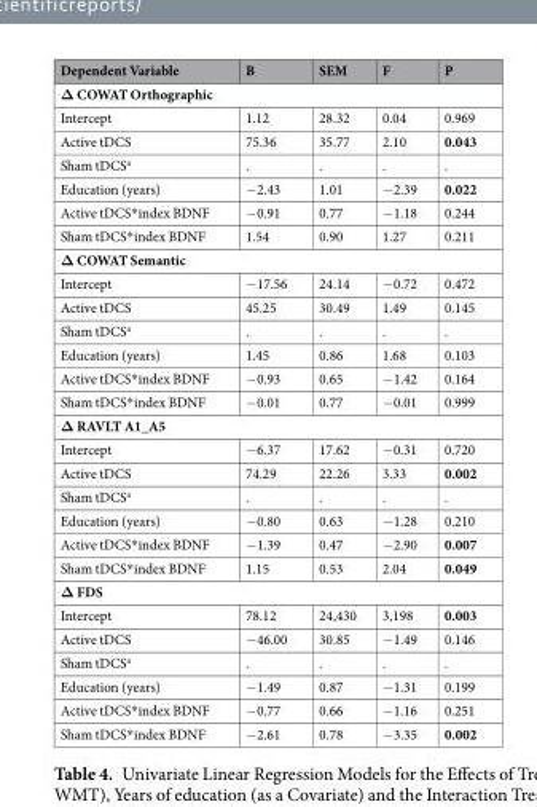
<table><thead><tr><td>Dependent Variable</td><td>B</td><td>SEM</td><td>F</td><td>P</td></tr></thead><tbody><tr><td colspan="5">Δ COWAT Orthographic</td></tr><tr><td>Intercept</td><td>1.12</td><td>28.32</td><td>0.04</td><td>0.969</td></tr><tr><td>Active tDCS</td><td>75.36</td><td>35.77</td><td>2.10</td><td>0.043</td></tr><tr><td>Sham tDCS<sup>a</sup></td><td>.</td><td>.</td><td>.</td><td>.</td></tr><tr><td>Education (years)</td><td>−2.43</td><td>1.01</td><td>−2.39</td><td>0.022</td></tr><tr><td>Active tDCS*index BDNF</td><td>−0.91</td><td>0.77</td><td>−1.18</td><td>0.244</td></tr><tr><td>Sham tDCS*index BDNF</td><td>1.54</td><td>0.90</td><td>1.27</td><td>0.211</td></tr><tr><td colspan="5">Δ COWAT Semantic</td></tr><tr><td>Intercept</td><td>−17.56</td><td>24.14</td><td>−0.72</td><td>0.472</td></tr><tr><td>Active tDCS</td><td>45.25</td><td>30.49</td><td>1.49</td><td>0.145</td></tr><tr><td>Sham tDCS<sup>a</sup></td><td>.</td><td>.</td><td>.</td><td>.</td></tr><tr><td>Education (years)</td><td>1.45</td><td>0.86</td><td>1.68</td><td>0.103</td></tr><tr><td>Active tDCS*index BDNF</td><td>−0.93</td><td>0.65</td><td>−1.42</td><td>0.164</td></tr><tr><td>Sham tDCS*index BDNF</td><td>−0.01</td><td>0.77</td><td>−0.01</td><td>0.999</td></tr><tr><td colspan="5">Δ RAVLT A1_A5</td></tr><tr><td>Intercept</td><td>−6.37</td><td>17.62</td><td>−0.31</td><td>0.720</td></tr><tr><td>Active tDCS</td><td>74.29</td><td>22.26</td><td>3.33</td><td>0.002</td></tr><tr><td>Sham tDCS<sup>a</sup></td><td>.</td><td>.</td><td>.</td><td>.</td></tr><tr><td>Education (years)</td><td>−0.80</td><td>0.63</td><td>−1.28</td><td>0.210</td></tr><tr><td>Active tDCS*index BDNF</td><td>−1.39</td><td>0.47</td><td>−2.90</td><td>0.007</td></tr><tr><td>Sham tDCS*index BDNF</td><td>1.15</td><td>0.53</td><td>2.04</td><td>0.049</td></tr><tr><td colspan="5">Δ FDS</td></tr><tr><td>Intercept</td><td>78.12</td><td>24,430</td><td>3,198</td><td>0.003</td></tr><tr><td>Active tDCS</td><td>−46.00</td><td>30.85</td><td>−1.49</td><td>0.146</td></tr><tr><td>Sham tDCS<sup>a</sup></td><td>.</td><td>.</td><td>.</td><td>.</td></tr><tr><td>Education (years)</td><td>−1.49</td><td>0.87</td><td>−1.31</td><td>0.199</td></tr><tr><td>Active tDCS*index BDNF</td><td>−0.77</td><td>0.66</td><td>−1.16</td><td>0.251</td></tr><tr><td>Sham tDCS*index BDNF</td><td>−2.61</td><td>0.78</td><td>−3.35</td><td>0.002</td></tr></tbody></table>